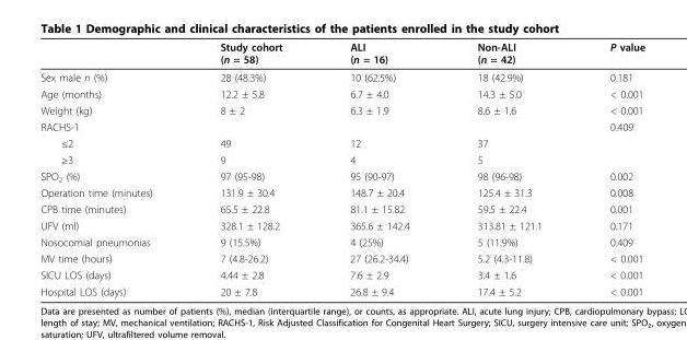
<table><thead><tr><td></td><td>Study cohort (n = 58)</td><td>ALI (n = 16)</td><td>Non-ALI (n = 42)</td><td>P value</td></tr></thead><tbody><tr><td>Sex male n (%)</td><td>28 (48.3%)</td><td>10 (62.5%)</td><td>18 (42.9%)</td><td>0.181</td></tr><tr><td>Age (months)</td><td>12.2 ± 5.8</td><td>6.7 ± 4.0</td><td>14.3 ± 5.0</td><td>&lt; 0.001</td></tr><tr><td>Weight (kg)</td><td>8 ± 2</td><td>6.3 ± 1.9</td><td>8.6 ± 1.6</td><td>&lt; 0.001</td></tr><tr><td>RACHS-1</td><td></td><td></td><td></td><td>0.409</td></tr><tr><td>≤2</td><td>49</td><td>12</td><td>37</td><td></td></tr><tr><td>≥3</td><td>9</td><td>4</td><td>5</td><td></td></tr><tr><td>SPO<sub>2</sub> (%)</td><td>97 (95-98)</td><td>95 (90-97)</td><td>98 (96-98)</td><td>0.002</td></tr><tr><td>Operation time (minutes)</td><td>131.9 ± 30.4</td><td>148.7 ± 20.4</td><td>125.4 ± 31.3</td><td>0.008</td></tr><tr><td>CPB time (minutes)</td><td>65.5 ± 22.8</td><td>81.1 ± 15.82</td><td>59.5 ± 22.4</td><td>0.001</td></tr><tr><td>UFV (ml)</td><td>328.1 ± 128.2</td><td>365.6 ± 142.4</td><td>313.81 ± 121.1</td><td>0.171</td></tr><tr><td>Nosocomial pneumonias</td><td>9 (15.5%)</td><td>4 (25%)</td><td>5 (11.9%)</td><td>0.409</td></tr><tr><td>MV time (hours)</td><td>7 (4.8-26.2)</td><td>27 (26.2-34.4)</td><td>5.2 (4.3-11.8)</td><td>&lt; 0.001</td></tr><tr><td>SICU LOS (days)</td><td>4.44 ± 2.8</td><td>7.6 ± 2.9</td><td>3.4 ± 1.6</td><td>&lt; 0.001</td></tr><tr><td>Hospital LOS (days)</td><td>20 ± 7.8</td><td>26.8 ± 9.4</td><td>17.4 ± 5.2</td><td>&lt; 0.001</td></tr></tbody></table>